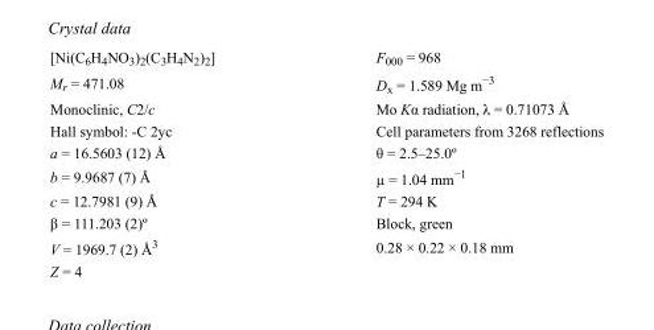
<table><tbody><tr><td>[Ni(C<sub>6</sub>H<sub>4</sub>NO<sub>3</sub>)<sub>2</sub>(C<sub>3</sub>H<sub>4</sub>N<sub>2</sub>)<sub>2</sub>]</td><td>F000 = 968</td></tr><tr><td>M<sub>r</sub> = 471.08</td><td>D<sub>x</sub> = 1.589 Mg m<sup>−3</sup></td></tr><tr><td>Monoclinic, C2/c</td><td>Mo Kα radiation, λ = 0.71073 Å</td></tr><tr><td>Hall symbol: -C 2yc</td><td>Cell parameters from 3268 reflections</td></tr><tr><td>a = 16.5603 (12) Å</td><td>θ = 2.5–25.0º</td></tr><tr><td>b = 9.9687 (7) Å</td><td>µ = 1.04 mm<sup>−1</sup></td></tr><tr><td>c = 12.7981 (9) Å</td><td>T = 294 K</td></tr><tr><td>β = 111.203 (2)º</td><td>Block, green</td></tr><tr><td>V = 1969.7 (2) Å<sup>3</sup></td><td>0.28 × 0.22 × 0.18 mm</td></tr><tr><td>Z = 4</td><td></td></tr></tbody></table>